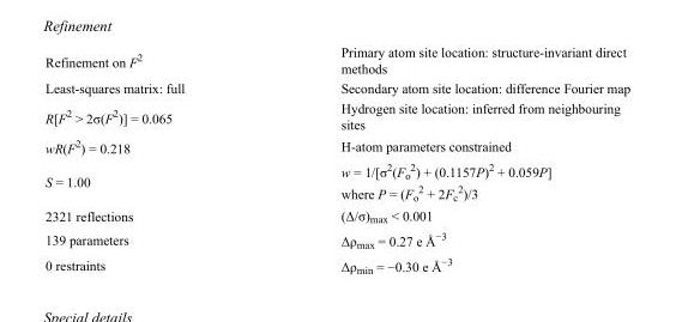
<table><tbody><tr><td>Refinement on F<sup>2</sup></td><td>Primary atom site location: structure-invariant direct methods</td></tr><tr><td>Least-squares matrix: full</td><td>Secondary atom site location: difference Fourier map</td></tr><tr><td>R[F<sup>2</sup> &gt; 2σ(F<sup>2</sup>)] = 0.065</td><td>Hydrogen site location: inferred from neighbouring sites</td></tr><tr><td>wR(F<sup>2</sup>) = 0.218</td><td>H-atom parameters constrained</td></tr><tr><td>S = 1.00</td><td>w = 1/[σ<sup>2</sup>(F<sub>o</sub> <sup>2</sup>) + (0.1157P)<sup>2</sup> + 0.059P] where P = (F<sub>o</sub> <sup>2</sup> + 2F<sub>c</sub> <sup>2</sup>)/3</td></tr><tr><td>2321 reflections</td><td>(Δ/σ)<sub>max</sub> &lt; 0.001</td></tr><tr><td>139 parameters</td><td>Δρ<sub>max</sub> = 0.27 e Å<sup>−3</sup></td></tr><tr><td>0 restraints</td><td>Δρ<sub>min</sub> = −0.30 e Å<sup>−3</sup></td></tr></tbody></table>